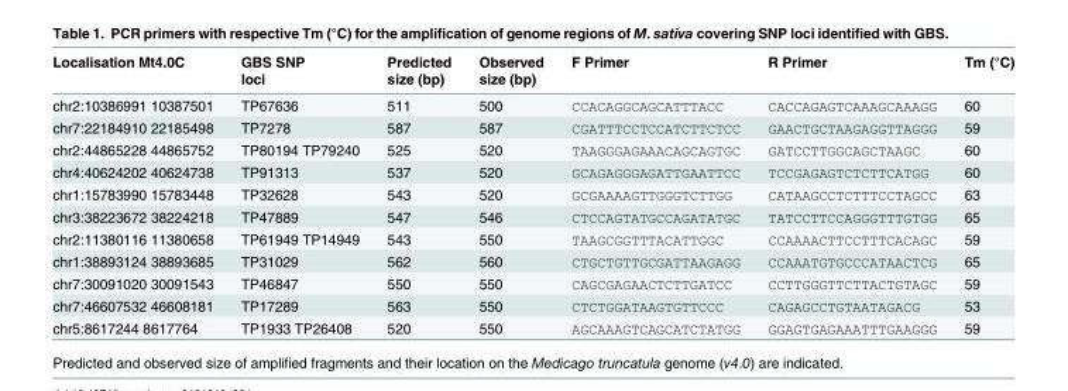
<table><thead><tr><td>Localisation Mt4.0C</td><td>GBS SNP loci</td><td>Predicted size (bp)</td><td>Observed size (bp)</td><td>F Primer</td><td>R Primer</td><td>Tm (°C)</td></tr></thead><tbody><tr><td>chr2:10386991 10387501</td><td>TP67636</td><td>511</td><td>500</td><td>CCACAGGCAGCATTTACC</td><td>CACCAGAGTCAAAGCAAAGG</td><td>60</td></tr><tr><td>chr7:22184910 22185498</td><td>TP7278</td><td>587</td><td>587</td><td>CGATTTCCTCCATCTTCTCC</td><td>GAACTGCTAAGAGGTTAGGG</td><td>59</td></tr><tr><td>chr2:44865228 44865752</td><td>TP80194 TP79240</td><td>525</td><td>520</td><td>TAAGGGAGAAACAGCAGTGC</td><td>GATCCTTGGCAGCTAAGC</td><td>60</td></tr><tr><td>chr4:40624202 40624738</td><td>TP91313</td><td>537</td><td>520</td><td>GCAGAGGGAGATTGAATTCC</td><td>TCCGAGAGTCTCTTCATGG</td><td>60</td></tr><tr><td>chr1:15783990 15783448</td><td>TP32628</td><td>543</td><td>520</td><td>GCGAAAAGTTGGGTCTTGG</td><td>CATAAGCCTCTTTCCTAGCC</td><td>63</td></tr><tr><td>chr3:38223672 38224218</td><td>TP47889</td><td>547</td><td>546</td><td>CTCCAGTATGCCAGATATGC</td><td>TATCCTTCCAGGGTTTGTGG</td><td>65</td></tr><tr><td>chr2:11380116 11380658</td><td>TP61949 TP14949</td><td>543</td><td>550</td><td>TAAGCGGTTTACATTGGC</td><td>CCAAAACTTCCTTTCACAGC</td><td>59</td></tr><tr><td>chr1:38893124 38893685</td><td>TP31029</td><td>562</td><td>560</td><td>CTGCTGTTGCGATTAAGAGG</td><td>CCAAATGTGCCCATAACTCG</td><td>65</td></tr><tr><td>chr7:30091020 30091543</td><td>TP46847</td><td>550</td><td>550</td><td>CAGCGAGAACTCTTGATCC</td><td>CCTTGGGTTCTTACTGTAGC</td><td>59</td></tr><tr><td>chr7:46607532 46608181</td><td>TP17289</td><td>563</td><td>550</td><td>CTCTGGATAAGTGTTCCC</td><td>CAGAGCCTGTAATAGACG</td><td>53</td></tr><tr><td>chr5:8617244 8617764</td><td>TP1933 TP26408</td><td>520</td><td>550</td><td>AGCAAAGTCAGCATCTATGG</td><td>GGAGTGAGAAATTTGAAGGG</td><td>59</td></tr></tbody></table>